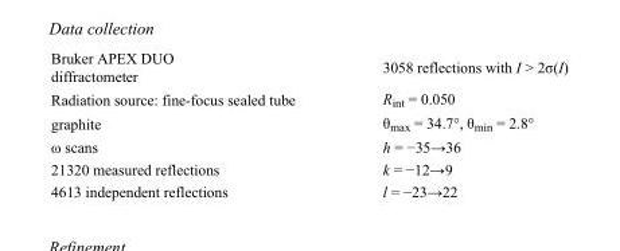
<table><tbody><tr><td>Bruker APEX DUO diffractometer</td><td>3058 reflections with I &gt; 2σ(I)</td></tr><tr><td>Radiation source: fine-focus sealed tube</td><td>R<sub>int</sub> = 0.050</td></tr><tr><td>graphite</td><td>θ<sub>max</sub> = 34.7°, θ<sub>min</sub> = 2.8°</td></tr><tr><td>ω scans</td><td>h = −35→36</td></tr><tr><td>21320 measured reflections</td><td>k = −12→9</td></tr><tr><td>4613 independent reflections</td><td>l = −23→22</td></tr></tbody></table>